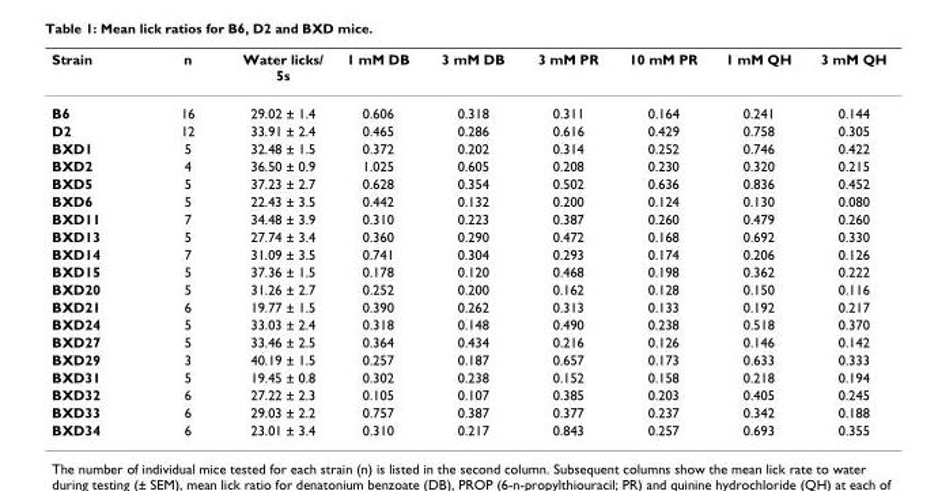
<table><thead><tr><td>Strain</td><td>n</td><td>Water licks/ 5s</td><td>1 mM DB</td><td>3 mM DB</td><td>3 mM PR</td><td>10 mM PR</td><td>1 mM QH</td><td>3 mM QH</td></tr></thead><tbody><tr><td>B6</td><td>16</td><td>29.02 ± 1.4</td><td>0.606</td><td>0.318</td><td>0.311</td><td>0.164</td><td>0.241</td><td>0.144</td></tr><tr><td>D2</td><td>12</td><td>33.91 ± 2.4</td><td>0.465</td><td>0.286</td><td>0.616</td><td>0.429</td><td>0.758</td><td>0.305</td></tr><tr><td>BXD1</td><td>5</td><td>32.48 ± 1.5</td><td>0.372</td><td>0.202</td><td>0.314</td><td>0.252</td><td>0.746</td><td>0.422</td></tr><tr><td>BXD2</td><td>4</td><td>36.50 ± 0.9</td><td>1.025</td><td>0.605</td><td>0.208</td><td>0.230</td><td>0.320</td><td>0.215</td></tr><tr><td>BXD5</td><td>5</td><td>37.23 ± 2.7</td><td>0.628</td><td>0.354</td><td>0.502</td><td>0.636</td><td>0.836</td><td>0.452</td></tr><tr><td>BXD6</td><td>5</td><td>22.43 ± 3.5</td><td>0.442</td><td>0.132</td><td>0.200</td><td>0.124</td><td>0.130</td><td>0.080</td></tr><tr><td>BXD11</td><td>7</td><td>34.48 ± 3.9</td><td>0.310</td><td>0.223</td><td>0.387</td><td>0.260</td><td>0.479</td><td>0.260</td></tr><tr><td>BXD13</td><td>5</td><td>27.74 ± 3.4</td><td>0.360</td><td>0.290</td><td>0.472</td><td>0.168</td><td>0.692</td><td>0.330</td></tr><tr><td>BXD14</td><td>7</td><td>31.09 ± 3.5</td><td>0.741</td><td>0.304</td><td>0.293</td><td>0.174</td><td>0.206</td><td>0.126</td></tr><tr><td>BXD15</td><td>5</td><td>37.36 ± 1.5</td><td>0.178</td><td>0.120</td><td>0.468</td><td>0.198</td><td>0.362</td><td>0.222</td></tr><tr><td>BXD20</td><td>5</td><td>31.26 ± 2.7</td><td>0.252</td><td>0.200</td><td>0.162</td><td>0.128</td><td>0.150</td><td>0.116</td></tr><tr><td>BXD21</td><td>6</td><td>19.77 ± 1.5</td><td>0.390</td><td>0.262</td><td>0.313</td><td>0.133</td><td>0.192</td><td>0.217</td></tr><tr><td>BXD24</td><td>5</td><td>33.03 ± 2.4</td><td>0.318</td><td>0.148</td><td>0.490</td><td>0.238</td><td>0.518</td><td>0.370</td></tr><tr><td>BXD27</td><td>5</td><td>33.46 ± 2.5</td><td>0.364</td><td>0.434</td><td>0.216</td><td>0.126</td><td>0.146</td><td>0.142</td></tr><tr><td>BXD29</td><td>3</td><td>40.19 ± 1.5</td><td>0.257</td><td>0.187</td><td>0.657</td><td>0.173</td><td>0.633</td><td>0.333</td></tr><tr><td>BXD31</td><td>5</td><td>19.45 ± 0.8</td><td>0.302</td><td>0.238</td><td>0.152</td><td>0.158</td><td>0.218</td><td>0.194</td></tr><tr><td>BXD32</td><td>6</td><td>27.22 ± 2.3</td><td>0.105</td><td>0.107</td><td>0.385</td><td>0.203</td><td>0.405</td><td>0.245</td></tr><tr><td>BXD33</td><td>6</td><td>29.03 ± 2.2</td><td>0.757</td><td>0.387</td><td>0.377</td><td>0.237</td><td>0.342</td><td>0.188</td></tr><tr><td>BXD34</td><td>6</td><td>23.01 ± 3.4</td><td>0.310</td><td>0.217</td><td>0.843</td><td>0.257</td><td>0.693</td><td>0.355</td></tr></tbody></table>